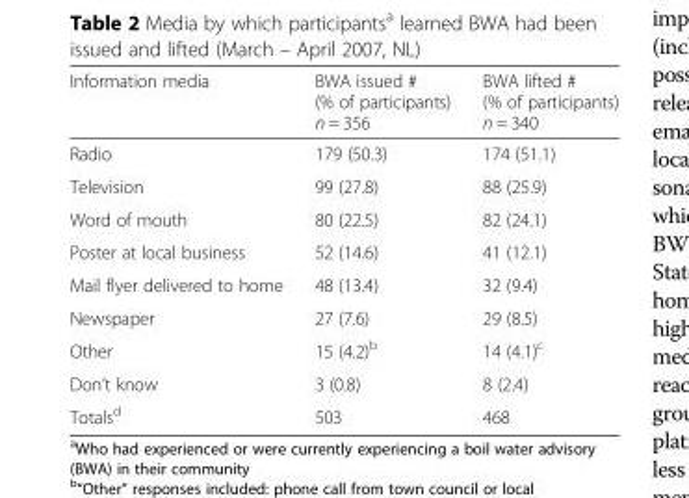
<table><thead><tr><td>Information media</td><td>BWA issued # (% of participants) n = 356</td><td>BWA lifted # (% of participants) n = 340</td></tr></thead><tbody><tr><td>Radio</td><td>179 (50.3)</td><td>174 (51.1)</td></tr><tr><td>Television</td><td>99 (27.8)</td><td>88 (25.9)</td></tr><tr><td>Word of mouth</td><td>80 (22.5)</td><td>82 (24.1)</td></tr><tr><td>Poster at local business</td><td>52 (14.6)</td><td>41 (12.1)</td></tr><tr><td>Mail flyer delivered to home</td><td>48 (13.4)</td><td>32 (9.4)</td></tr><tr><td>Newspaper</td><td>27 (7.6)</td><td>29 (8.5)</td></tr><tr><td>Other</td><td>15 (4.2)<sup>b</sup></td><td>14 (4.1)<sup>c</sup></td></tr><tr><td>Don’t know</td><td>3 (0.8)</td><td>8 (2.4)</td></tr><tr><td>Totals<sup>d</sup></td><td>503</td><td>468</td></tr></tbody></table>